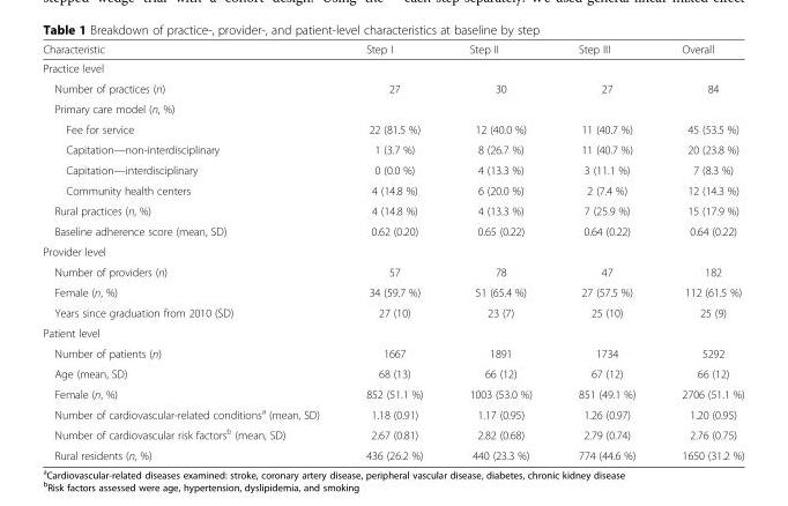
<table><thead><tr><td>Characteristic</td><td>Step I</td><td>Step II</td><td>Step III</td><td>Overall</td></tr></thead><tbody><tr><td colspan="5">Practice level</td></tr><tr><td>Number of practices (n)</td><td>27</td><td>30</td><td>27</td><td>84</td></tr><tr><td colspan="5">Primary care model (n, %)</td></tr><tr><td>Fee for service</td><td>22 (81.5 %)</td><td>12 (40.0 %)</td><td>11 (40.7 %)</td><td>45 (53.5 %)</td></tr><tr><td>Capitation—non-interdisciplinary</td><td>1 (3.7 %)</td><td>8 (26.7 %)</td><td>11 (40.7 %)</td><td>20 (23.8 %)</td></tr><tr><td>Capitation—interdisciplinary</td><td>0 (0.0 %)</td><td>4 (13.3 %)</td><td>3 (11.1 %)</td><td>7 (8.3 %)</td></tr><tr><td>Community health centers</td><td>4 (14.8 %)</td><td>6 (20.0 %)</td><td>2 (7.4 %)</td><td>12 (14.3 %)</td></tr><tr><td>Rural practices (n, %)</td><td>4 (14.8 %)</td><td>4 (13.3 %)</td><td>7 (25.9 %)</td><td>15 (17.9 %)</td></tr><tr><td>Baseline adherence score (mean, SD)</td><td>0.62 (0.20)</td><td>0.65 (0.22)</td><td>0.64 (0.22)</td><td>0.64 (0.22)</td></tr><tr><td colspan="5">Provider level</td></tr><tr><td>Number of providers (n)</td><td>57</td><td>78</td><td>47</td><td>182</td></tr><tr><td>Female (n, %)</td><td>34 (59.7 %)</td><td>51 (65.4 %)</td><td>27 (57.5 %)</td><td>112 (61.5 %)</td></tr><tr><td>Years since graduation from 2010 (SD)</td><td>27 (10)</td><td>23 (7)</td><td>25 (10)</td><td>25 (9)</td></tr><tr><td colspan="5">Patient level</td></tr><tr><td>Number of patients (n)</td><td>1667</td><td>1891</td><td>1734</td><td>5292</td></tr><tr><td>Age (mean, SD)</td><td>68 (13)</td><td>66 (12)</td><td>67 (12)</td><td>66 (12)</td></tr><tr><td>Female (n, %)</td><td>852 (51.1 %)</td><td>1003 (53.0 %)</td><td>851 (49.1 %)</td><td>2706 (51.1 %)</td></tr><tr><td>Number of cardiovascular-related conditions<sup>a</sup> (mean, SD)</td><td>1.18 (0.91)</td><td>1.17 (0.95)</td><td>1.26 (0.97)</td><td>1.20 (0.95)</td></tr><tr><td>Number of cardiovascular risk factors<sup>b</sup> (mean, SD)</td><td>2.67 (0.81)</td><td>2.82 (0.68)</td><td>2.79 (0.74)</td><td>2.76 (0.75)</td></tr><tr><td>Rural residents (n, %)</td><td>436 (26.2 %)</td><td>440 (23.3 %)</td><td>774 (44.6 %)</td><td>1650 (31.2 %)</td></tr></tbody></table>